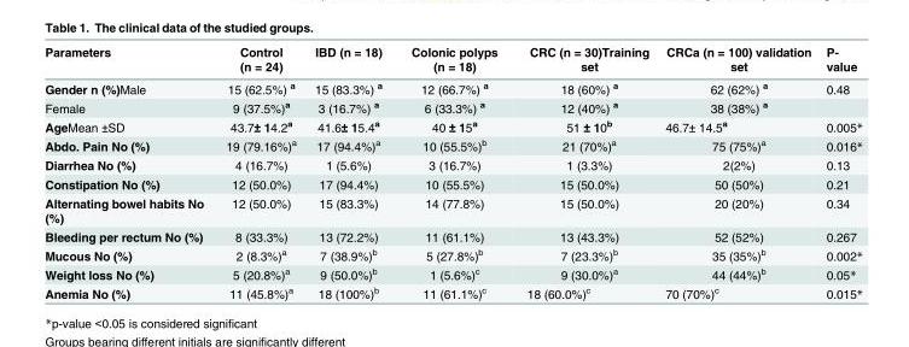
<table><thead><tr><td>Parameters</td><td>Control (n = 24)</td><td>IBD (n = 18)</td><td>Colonic polyps (n = 18)</td><td>CRC (n = 30)Training set</td><td>CRCa (n = 100) validation set</td><td>P- value</td></tr></thead><tbody><tr><td>Gender n (%)Male</td><td>15 (62.5%) <sup>a</sup></td><td>15 (83.3%) <sup>a</sup></td><td>12 (66.7%) <sup>a</sup></td><td>18 (60%) <sup>a</sup></td><td>62 (62%) <sup>a</sup></td><td>0.48</td></tr><tr><td>Female</td><td>9 (37.5%)<sup>a</sup></td><td>3 (16.7%) <sup>a</sup></td><td>6 (33.3%) <sup>a</sup></td><td>12 (40%) <sup>a</sup></td><td>38 (38%) <sup>a</sup></td><td></td></tr><tr><td>AgeMean ±SD</td><td>43.7± 14.2<sup>a</sup></td><td>41.6± 15.4<sup>a</sup></td><td>40 ± 15<sup>a</sup></td><td>51 ± 10<sup>b</sup></td><td>46.7± 14.5<sup>a</sup></td><td>0.005*</td></tr><tr><td>Abdo. Pain No (%)</td><td>19 (79.16%)<sup>a</sup></td><td>17 (94.4%)<sup>a</sup></td><td>10 (55.5%)<sup>b</sup></td><td>21 (70%)<sup>a</sup></td><td>75 (75%)<sup>a</sup></td><td>0.016*</td></tr><tr><td>Diarrhea No (%)</td><td>4 (16.7%)</td><td>1 (5.6%)</td><td>3 (16.7%)</td><td>1 (3.3%)</td><td>2(2%)</td><td>0.13</td></tr><tr><td>Constipation No (%)</td><td>12 (50.0%)</td><td>17 (94.4%)</td><td>10 (55.5%)</td><td>15 (50.0%)</td><td>50 (50%)</td><td>0.21</td></tr><tr><td>Alternating bowel habits No (%)</td><td>12 (50.0%)</td><td>15 (83.3%)</td><td>14 (77.8%)</td><td>15 (50.0%)</td><td>20 (20%)</td><td>0.34</td></tr><tr><td>Bleeding per rectum No (%)</td><td>8 (33.3%)</td><td>13 (72.2%)</td><td>11 (61.1%)</td><td>13 (43.3%)</td><td>52 (52%)</td><td>0.267</td></tr><tr><td>Mucous No (%)</td><td>2 (8.3%)<sup>a</sup></td><td>7 (38.9%)<sup>b</sup></td><td>5 (27.8%)<sup>b</sup></td><td>7 (23.3%)<sup>b</sup></td><td>35 (35%)<sup>b</sup></td><td>0.002*</td></tr><tr><td>Weight loss No (%)</td><td>5 (20.8%)<sup>a</sup></td><td>9 (50.0%)<sup>b</sup></td><td>1 (5.6%)<sup>c</sup></td><td>9 (30.0%)<sup>a</sup></td><td>44 (44%)<sup>b</sup></td><td>0.05*</td></tr><tr><td>Anemia No (%)</td><td>11 (45.8%)<sup>a</sup></td><td>18 (100%)<sup>b</sup></td><td>11 (61.1%)<sup>c</sup></td><td>18 (60.0%)<sup>c</sup></td><td>70 (70%)<sup>c</sup></td><td>0.015*</td></tr></tbody></table>